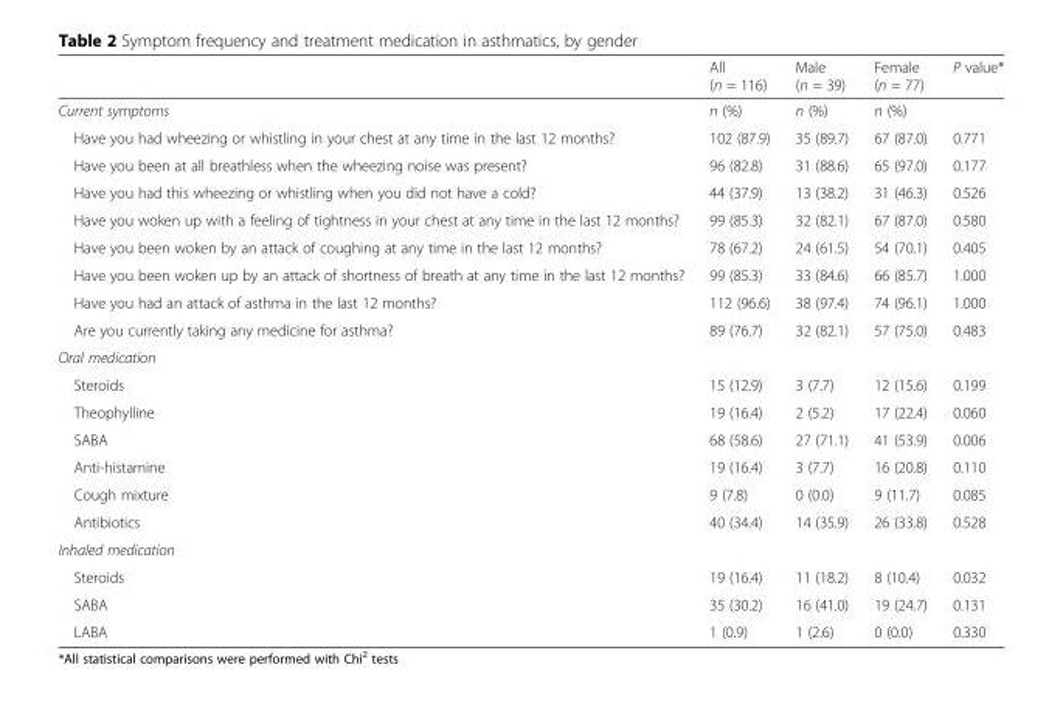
<table><thead><tr><td></td><td>All (n = 116)</td><td>Male (n = 39)</td><td>Female (n = 77)</td><td>P value*</td></tr></thead><tbody><tr><td>Current symptoms</td><td>n (%)</td><td>n (%)</td><td>n (%)</td><td></td></tr><tr><td>Have you had wheezing or whistling in your chest at any time in the last 12 months?</td><td>102 (87.9)</td><td>35 (89.7)</td><td>67 (87.0)</td><td>0.771</td></tr><tr><td>Have you been at all breathless when the wheezing noise was present?</td><td>96 (82.8)</td><td>31 (88.6)</td><td>65 (97.0)</td><td>0.177</td></tr><tr><td>Have you had this wheezing or whistling when you did not have a cold?</td><td>44 (37.9)</td><td>13 (38.2)</td><td>31 (46.3)</td><td>0.526</td></tr><tr><td>Have you woken up with a feeling of tightness in your chest at any time in the last 12 months?</td><td>99 (85.3)</td><td>32 (82.1)</td><td>67 (87.0)</td><td>0.580</td></tr><tr><td>Have you been woken by an attack of coughing at any time in the last 12 months?</td><td>78 (67.2)</td><td>24 (61.5)</td><td>54 (70.1)</td><td>0.405</td></tr><tr><td>Have you been woken up by an attack of shortness of breath at any time in the last 12 months?</td><td>99 (85.3)</td><td>33 (84.6)</td><td>66 (85.7)</td><td>1.000</td></tr><tr><td>Have you had an attack of asthma in the last 12 months?</td><td>112 (96.6)</td><td>38 (97.4)</td><td>74 (96.1)</td><td>1.000</td></tr><tr><td>Are you currently taking any medicine for asthma?</td><td>89 (76.7)</td><td>32 (82.1)</td><td>57 (75.0)</td><td>0.483</td></tr><tr><td colspan="5">Oral medication</td></tr><tr><td>Steroids</td><td>15 (12.9)</td><td>3 (7.7)</td><td>12 (15.6)</td><td>0.199</td></tr><tr><td>Theophylline</td><td>19 (16.4)</td><td>2 (5.2)</td><td>17 (22.4)</td><td>0.060</td></tr><tr><td>SABA</td><td>68 (58.6)</td><td>27 (71.1)</td><td>41 (53.9)</td><td>0.006</td></tr><tr><td>Anti-histamine</td><td>19 (16.4)</td><td>3 (7.7)</td><td>16 (20.8)</td><td>0.110</td></tr><tr><td>Cough mixture</td><td>9 (7.8)</td><td>0 (0.0)</td><td>9 (11.7)</td><td>0.085</td></tr><tr><td>Antibiotics</td><td>40 (34.4)</td><td>14 (35.9)</td><td>26 (33.8)</td><td>0.528</td></tr><tr><td colspan="5">Inhaled medication</td></tr><tr><td>Steroids</td><td>19 (16.4)</td><td>11 (18.2)</td><td>8 (10.4)</td><td>0.032</td></tr><tr><td>SABA</td><td>35 (30.2)</td><td>16 (41.0)</td><td>19 (24.7)</td><td>0.131</td></tr><tr><td>LABA</td><td>1 (0.9)</td><td>1 (2.6)</td><td>0 (0.0)</td><td>0.330</td></tr></tbody></table>